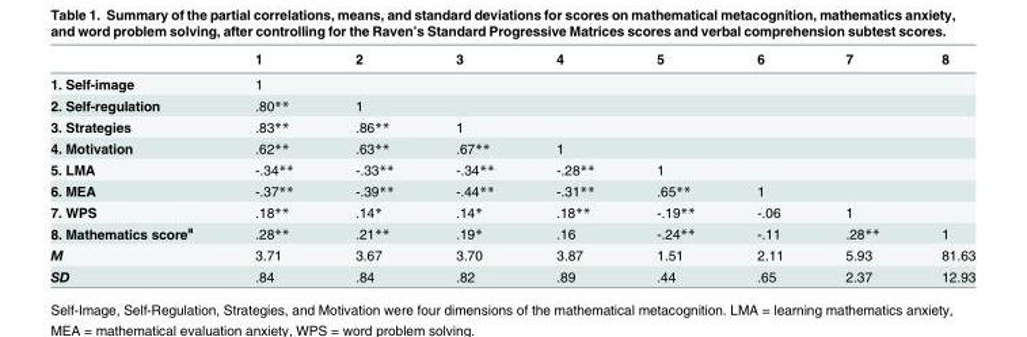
<table><thead><tr><td></td><td>1</td><td>2</td><td>3</td><td>4</td><td>5</td><td>6</td><td>7</td><td>8</td></tr></thead><tbody><tr><td>1. Self-image</td><td>1</td><td></td><td></td><td></td><td></td><td></td><td></td><td></td></tr><tr><td>2. Self-regulation</td><td>.80**</td><td>1</td><td></td><td></td><td></td><td></td><td></td><td></td></tr><tr><td>3. Strategies</td><td>.83**</td><td>.86**</td><td>1</td><td></td><td></td><td></td><td></td><td></td></tr><tr><td>4. Motivation</td><td>.62**</td><td>.63**</td><td>.67**</td><td>1</td><td></td><td></td><td></td><td></td></tr><tr><td>5. LMA</td><td>-.34**</td><td>-.33**</td><td>-.34**</td><td>-.28**</td><td>1</td><td></td><td></td><td></td></tr><tr><td>6. MEA</td><td>-.37**</td><td>-.39**</td><td>-.44**</td><td>-.31**</td><td>.65**</td><td>1</td><td></td><td></td></tr><tr><td>7. WPS</td><td>.18**</td><td>.14*</td><td>.14*</td><td>.18**</td><td>-.19**</td><td>-.06</td><td>1</td><td></td></tr><tr><td>8. Mathematics score<sup>a</sup></td><td>.28**</td><td>.21**</td><td>.19*</td><td>.16</td><td>-.24**</td><td>-.11</td><td>.28**</td><td>1</td></tr><tr><td>M</td><td>3.71</td><td>3.67</td><td>3.70</td><td>3.87</td><td>1.51</td><td>2.11</td><td>5.93</td><td>81.63</td></tr><tr><td>SD</td><td>.84</td><td>.84</td><td>.82</td><td>.89</td><td>.44</td><td>.65</td><td>2.37</td><td>12.93</td></tr></tbody></table>